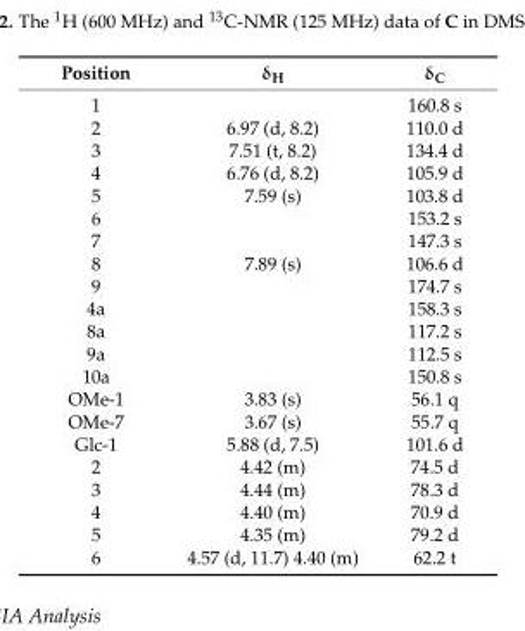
<table><thead><tr><td>Position</td><td>δ<sub>H</sub></td><td>δ<sub>C</sub></td></tr></thead><tbody><tr><td>1</td><td></td><td>160.8 s</td></tr><tr><td>2</td><td>6.97 (d, 8.2)</td><td>110.0 d</td></tr><tr><td>3</td><td>7.51 (t, 8.2)</td><td>134.4 d</td></tr><tr><td>4</td><td>6.76 (d, 8.2)</td><td>105.9 d</td></tr><tr><td>5</td><td>7.59 (s)</td><td>103.8 d</td></tr><tr><td>6</td><td></td><td>153.2 s</td></tr><tr><td>7</td><td></td><td>147.3 s</td></tr><tr><td>8</td><td>7.89 (s)</td><td>106.6 d</td></tr><tr><td>9</td><td></td><td>174.7 s</td></tr><tr><td>4a</td><td></td><td>158.3 s</td></tr><tr><td>8a</td><td></td><td>117.2 s</td></tr><tr><td>9a</td><td></td><td>112.5 s</td></tr><tr><td>10a</td><td></td><td>150.8 s</td></tr><tr><td>OMe-1</td><td>3.83 (s)</td><td>56.1 q</td></tr><tr><td>OMe-7</td><td>3.67 (s)</td><td>55.7 q</td></tr><tr><td>Glc-1</td><td>5.88 (d, 7.5)</td><td>101.6 d</td></tr><tr><td>2</td><td>4.42 (m)</td><td>74.5 d</td></tr><tr><td>3</td><td>4.44 (m)</td><td>78.3 d</td></tr><tr><td>4</td><td>4.40 (m)</td><td>70.9 d</td></tr><tr><td>5</td><td>4.35 (m)</td><td>79.2 d</td></tr><tr><td>6</td><td>4.57 (d, 11.7) 4.40 (m)</td><td>62.2 t</td></tr></tbody></table>